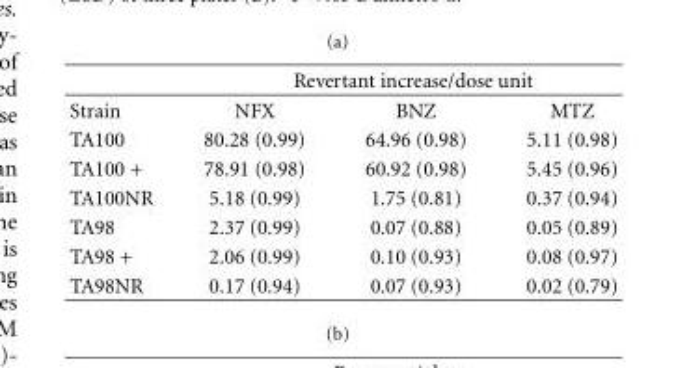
<table><thead><tr><td rowspan="2">Strain</td><td colspan="3">Revertant increase/dose unit</td></tr><tr><td>NFX</td><td>BNZ</td><td>MTZ</td></tr></thead><tbody><tr><td>TA100</td><td>80.28 (0.99)</td><td>64.96 (0.98)</td><td>5.11 (0.98)</td></tr><tr><td>TA100 +</td><td>78.91 (0.98)</td><td>60.92 (0.98)</td><td>5.45 (0.96)</td></tr><tr><td>TA100NR</td><td>5.18 (0.99)</td><td>1.75 (0.81)</td><td>0.37 (0.94)</td></tr><tr><td>TA98</td><td>2.37 (0.99)</td><td>0.07 (0.88)</td><td>0.05 (0.89)</td></tr><tr><td>TA98 +</td><td>2.06 (0.99)</td><td>0.10 (0.93)</td><td>0.08 (0.97)</td></tr><tr><td>TA98NR</td><td>0.17 (0.94)</td><td>0.07 (0.93)</td><td>0.02 (0.79)</td></tr></tbody></table>